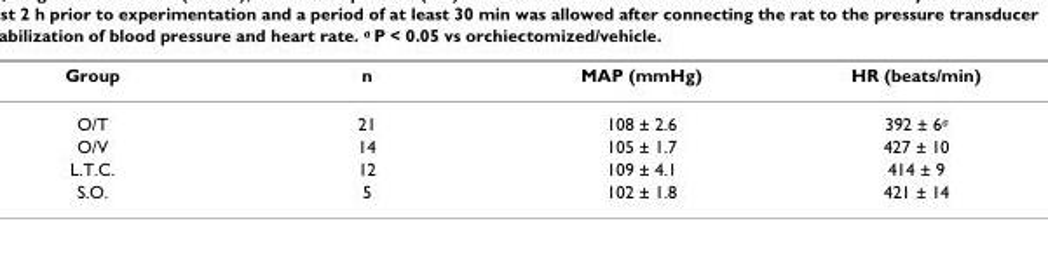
<table><thead><tr><td>Group</td><td>n</td><td>MAP (mmHg)</td><td>HR (beats/min)</td></tr></thead><tbody><tr><td>O/T</td><td>21</td><td>108 ± 2.6</td><td>392 ± 6<sup>a</sup></td></tr><tr><td>O/V</td><td>14</td><td>105 ± 1.7</td><td>427 ± 10</td></tr><tr><td>L.T.C.</td><td>12</td><td>109 ± 4.1</td><td>414 ± 9</td></tr><tr><td>S.O.</td><td>5</td><td>102 ± 1.8</td><td>421 ± 14</td></tr></tbody></table>